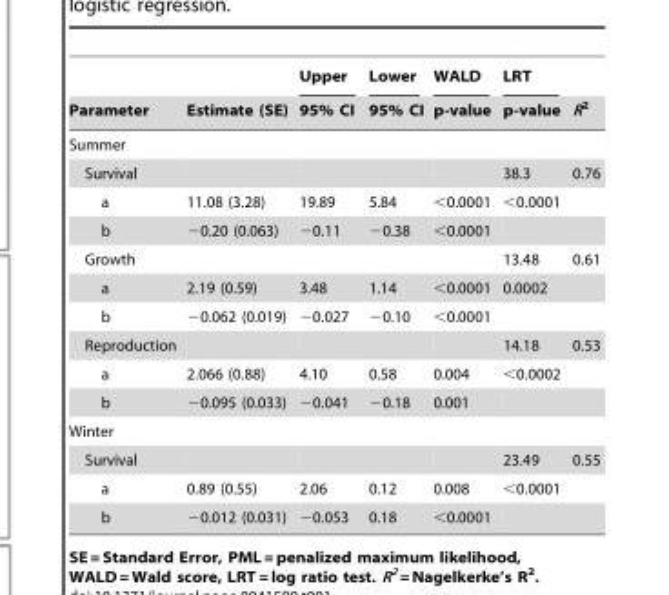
<table><thead><tr><td rowspan="2">Parameter</td><td rowspan="2">Estimate (SE)</td><td rowspan="2">Upper 95% CI</td><td rowspan="2">Lower 95% CI</td><td rowspan="2">WALD p-value</td><td rowspan="2">LRT p-value</td><td rowspan="2">R<sup>2</sup></td></tr><tr></tr></thead><tbody><tr><td colspan="7">Summer</td></tr><tr><td>Survival</td><td></td><td></td><td></td><td></td><td>38.3</td><td>0.76</td></tr><tr><td>a</td><td>11.08 (3.28)</td><td>19.89</td><td>5.84</td><td>&lt;0.0001</td><td>&lt;0.0001</td><td></td></tr><tr><td>b</td><td>−0.20 (0.063)</td><td>−0.11</td><td>−0.38</td><td>&lt;0.0001</td><td></td><td></td></tr><tr><td>Growth</td><td></td><td></td><td></td><td></td><td>13.48</td><td>0.61</td></tr><tr><td>a</td><td>2.19 (0.59)</td><td>3.48</td><td>1.14</td><td>&lt;0.0001</td><td>0.0002</td><td></td></tr><tr><td>b</td><td>−0.062 (0.019)</td><td>−0.027</td><td>−0.10</td><td>&lt;0.0001</td><td></td><td></td></tr><tr><td>Reproduction</td><td></td><td></td><td></td><td></td><td>14.18</td><td>0.53</td></tr><tr><td>a</td><td>2.066 (0.88)</td><td>4.10</td><td>0.58</td><td>0.004</td><td>&lt;0.0002</td><td></td></tr><tr><td>b</td><td>−0.095 (0.033)</td><td>−0.041</td><td>−0.18</td><td>0.001</td><td></td><td></td></tr><tr><td colspan="7">Winter</td></tr><tr><td>Survival</td><td></td><td></td><td></td><td></td><td>23.49</td><td>0.55</td></tr><tr><td>a</td><td>0.89 (0.55)</td><td>2.06</td><td>0.12</td><td>0.008</td><td>&lt;0.0001</td><td></td></tr><tr><td>b</td><td>−0.012 (0.031)</td><td>−0.053</td><td>0.18</td><td>&lt;0.0001</td><td></td><td></td></tr></tbody></table>